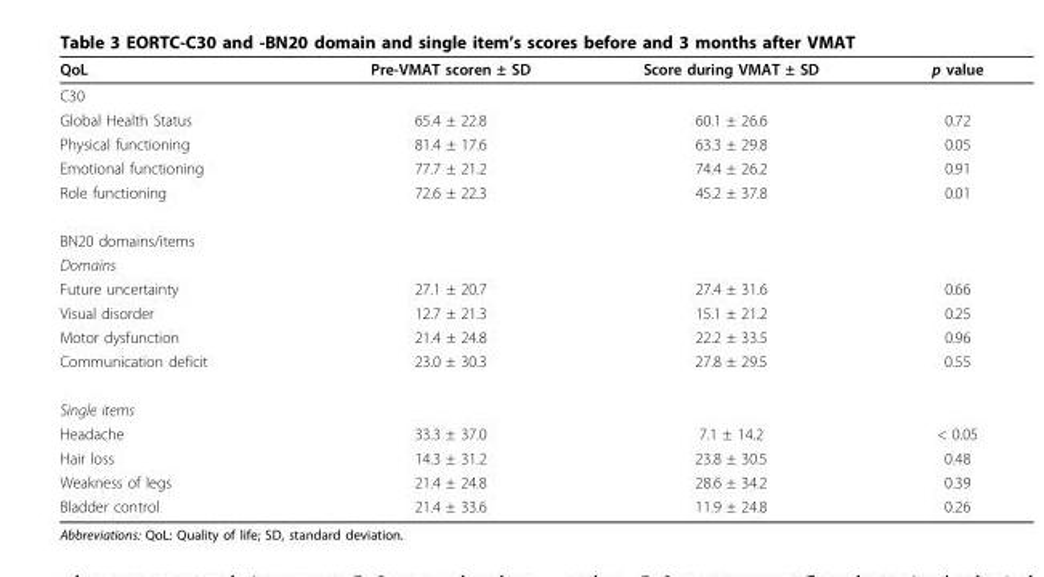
<table><thead><tr><td>QoL</td><td>Pre-VMAT scoren ± SD</td><td>Score during VMAT ± SD</td><td>p value</td></tr></thead><tbody><tr><td colspan="4">C30</td></tr><tr><td>Global Health Status</td><td>65.4 ± 22.8</td><td>60.1 ± 26.6</td><td>0.72</td></tr><tr><td>Physical functioning</td><td>81.4 ± 17.6</td><td>63.3 ± 29.8</td><td>0.05</td></tr><tr><td>Emotional functioning</td><td>77.7 ± 21.2</td><td>74.4 ± 26.2</td><td>0.91</td></tr><tr><td>Role functioning</td><td>72.6 ± 22.3</td><td>45.2 ± 37.8</td><td>0.01</td></tr><tr><td colspan="4">BN20 domains/items</td></tr><tr><td colspan="4">Domains</td></tr><tr><td>Future uncertainty</td><td>27.1 ± 20.7</td><td>27.4 ± 31.6</td><td>0.66</td></tr><tr><td>Visual disorder</td><td>12.7 ± 21.3</td><td>15.1 ± 21.2</td><td>0.25</td></tr><tr><td>Motor dysfunction</td><td>21.4 ± 24.8</td><td>22.2 ± 33.5</td><td>0.96</td></tr><tr><td>Communication deficit</td><td>23.0 ± 30.3</td><td>27.8 ± 29.5</td><td>0.55</td></tr><tr><td colspan="4">Single items</td></tr><tr><td>Headache</td><td>33.3 ± 37.0</td><td>7.1 ± 14.2</td><td>&lt; 0.05</td></tr><tr><td>Hair loss</td><td>14.3 ± 31.2</td><td>23.8 ± 30.5</td><td>0.48</td></tr><tr><td>Weakness of legs</td><td>21.4 ± 24.8</td><td>28.6 ± 34.2</td><td>0.39</td></tr><tr><td>Bladder control</td><td>21.4 ± 33.6</td><td>11.9 ± 24.8</td><td>0.26</td></tr></tbody></table>